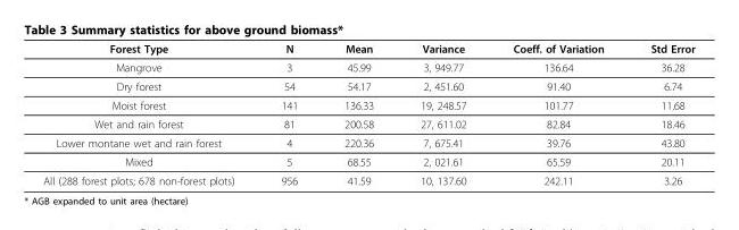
<table><thead><tr><td>Forest Type</td><td>N</td><td>Mean</td><td>Variance</td><td>Coeff. of Variation</td><td>Std Error</td></tr></thead><tbody><tr><td>Mangrove</td><td>3</td><td>45.99</td><td>3, 949.77</td><td>136.64</td><td>36.28</td></tr><tr><td>Dry forest</td><td>54</td><td>54.17</td><td>2, 451.60</td><td>91.40</td><td>6.74</td></tr><tr><td>Moist forest</td><td>141</td><td>136.33</td><td>19, 248.57</td><td>101.77</td><td>11.68</td></tr><tr><td>Wet and rain forest</td><td>81</td><td>200.58</td><td>27, 611.02</td><td>82.84</td><td>18.46</td></tr><tr><td>Lower montane wet and rain forest</td><td>4</td><td>220.36</td><td>7, 675.41</td><td>39.76</td><td>43.80</td></tr><tr><td>Mixed</td><td>5</td><td>68.55</td><td>2, 021.61</td><td>65.59</td><td>20.11</td></tr><tr><td>All (288 forest plots; 678 non-forest plots)</td><td>956</td><td>41.59</td><td>10, 137.60</td><td>242.11</td><td>3.26</td></tr></tbody></table>